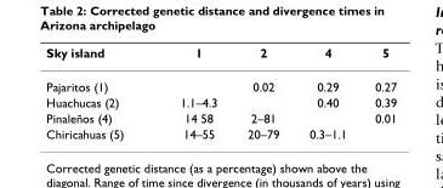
<table><thead><tr><td>Sky island</td><td>1</td><td>2</td><td>4</td><td>5</td></tr></thead><tbody><tr><td>Pajaritos (1)</td><td></td><td>0.02</td><td>0.29</td><td>0.27</td></tr><tr><td>Huachucas (2)</td><td>1.1–4.3</td><td></td><td>0.40</td><td>0.39</td></tr><tr><td>Pinaleños (4)</td><td>14 58</td><td>2–81</td><td></td><td>0.01</td></tr><tr><td>Chiricahuas (5)</td><td>14–55</td><td>20–79</td><td>0.3–1.1</td><td></td></tr></tbody></table>